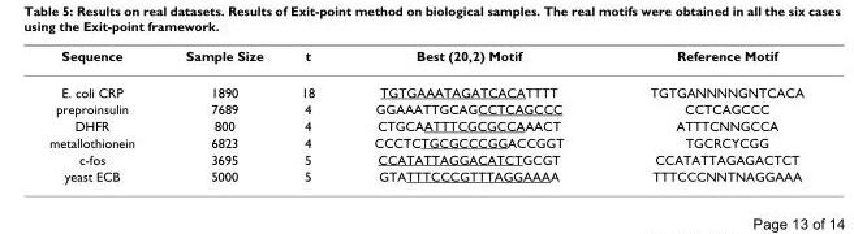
<table><thead><tr><td>Sequence</td><td>Sample Size</td><td>t</td><td>Best (20,2) Motif</td><td>Reference Motif</td></tr></thead><tbody><tr><td>E. coli CRP</td><td>1890</td><td>18</td><td>TGTGAAATAGATCACATTTT</td><td>TGTGANNNNGNTCACA</td></tr><tr><td>preproinsulin</td><td>7689</td><td>4</td><td>GGAAATTGCAGCCTCAGCCC</td><td>CCTCAGCCC</td></tr><tr><td>DHFR</td><td>800</td><td>4</td><td>CTGCAATTTCGCGCCAAACT</td><td>ATTTCNNGCCA</td></tr><tr><td>metallothionein</td><td>6823</td><td>4</td><td>CCCTCTGCGCCCGGACCGGT</td><td>TGCRCYCGG</td></tr><tr><td>c-fos</td><td>3695</td><td>5</td><td>CCATATTAGGACATCTGCGT</td><td>CCATATTAGAGACTCT</td></tr><tr><td>yeast ECB</td><td>5000</td><td>5</td><td>GTATTTCCCGTTTAGGAAAA</td><td>TTTCCCNNTNAGGAAA</td></tr></tbody></table>